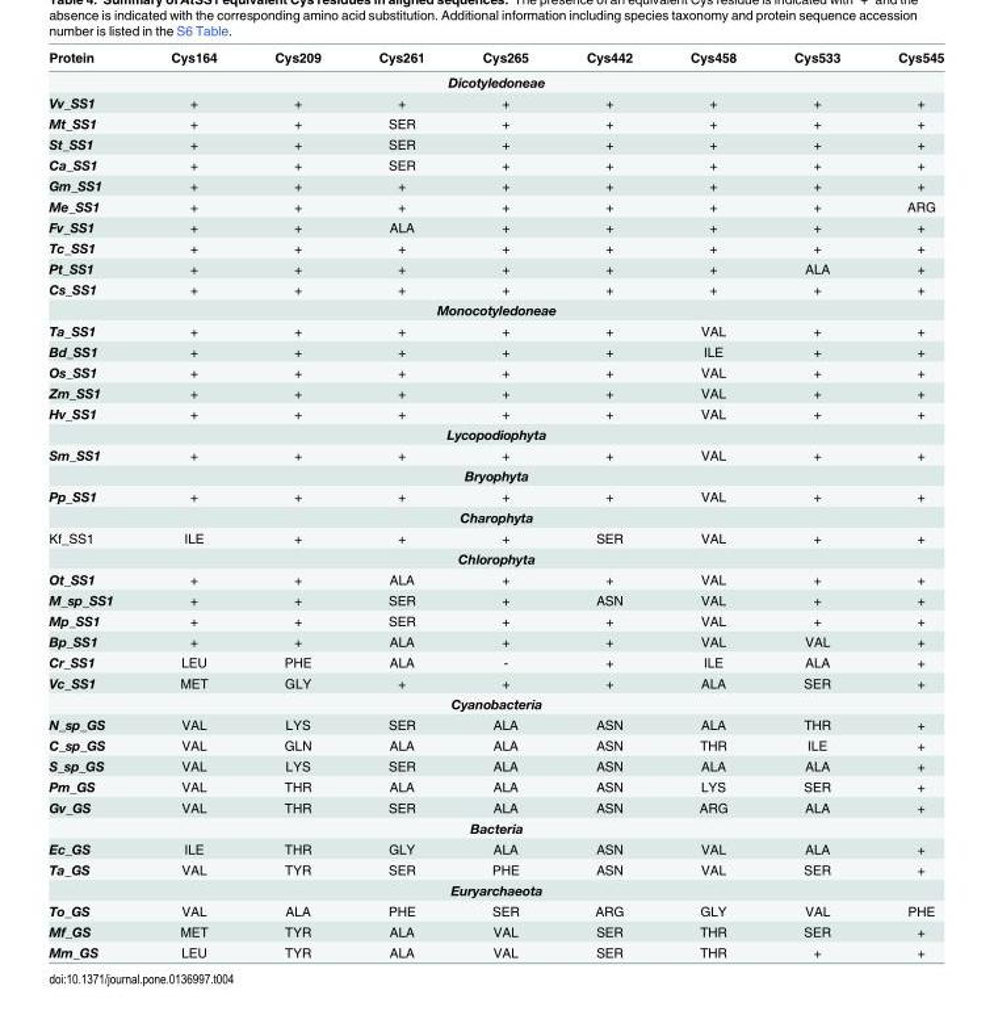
<table><thead><tr><td>Protein</td><td>Cys164</td><td>Cys209</td><td>Cys261</td><td>Cys265</td><td>Cys442</td><td>Cys458</td><td>Cys533</td><td>Cys545</td></tr></thead><tbody><tr><td colspan="9">Dicotyledoneae</td></tr><tr><td>Vv_SS1</td><td>+</td><td>+</td><td>+</td><td>+</td><td>+</td><td>+</td><td>+</td><td>+</td></tr><tr><td>Mt_SS1</td><td>+</td><td>+</td><td>SER</td><td>+</td><td>+</td><td>+</td><td>+</td><td>+</td></tr><tr><td>St_SS1</td><td>+</td><td>+</td><td>SER</td><td>+</td><td>+</td><td>+</td><td>+</td><td>+</td></tr><tr><td>Ca_SS1</td><td>+</td><td>+</td><td>SER</td><td>+</td><td>+</td><td>+</td><td>+</td><td>+</td></tr><tr><td>Gm_SS1</td><td>+</td><td>+</td><td>+</td><td>+</td><td>+</td><td>+</td><td>+</td><td>+</td></tr><tr><td>Me_SS1</td><td>+</td><td>+</td><td>+</td><td>+</td><td>+</td><td>+</td><td>+</td><td>ARG</td></tr><tr><td>Fv_SS1</td><td>+</td><td>+</td><td>ALA</td><td>+</td><td>+</td><td>+</td><td>+</td><td>+</td></tr><tr><td>Tc_SS1</td><td>+</td><td>+</td><td>+</td><td>+</td><td>+</td><td>+</td><td>+</td><td>+</td></tr><tr><td>Pt_SS1</td><td>+</td><td>+</td><td>+</td><td>+</td><td>+</td><td>+</td><td>ALA</td><td>+</td></tr><tr><td>Cs_SS1</td><td>+</td><td>+</td><td>+</td><td>+</td><td>+</td><td>+</td><td>+</td><td>+</td></tr><tr><td colspan="9">Monocotyledoneae</td></tr><tr><td>Ta_SS1</td><td>+</td><td>+</td><td>+</td><td>+</td><td>+</td><td>VAL</td><td>+</td><td>+</td></tr><tr><td>Bd_SS1</td><td>+</td><td>+</td><td>+</td><td>+</td><td>+</td><td>ILE</td><td>+</td><td>+</td></tr><tr><td>Os_SS1</td><td>+</td><td>+</td><td>+</td><td>+</td><td>+</td><td>VAL</td><td>+</td><td>+</td></tr><tr><td>Zm_SS1</td><td>+</td><td>+</td><td>+</td><td>+</td><td>+</td><td>VAL</td><td>+</td><td>+</td></tr><tr><td>Hv_SS1</td><td>+</td><td>+</td><td>+</td><td>+</td><td>+</td><td>VAL</td><td>+</td><td>+</td></tr><tr><td colspan="9">Lycopodiophyta</td></tr><tr><td>Sm_SS1</td><td>+</td><td>+</td><td>+</td><td>+</td><td>+</td><td>VAL</td><td>+</td><td>+</td></tr><tr><td colspan="9">Bryophyta</td></tr><tr><td>Pp_SS1</td><td>+</td><td>+</td><td>+</td><td>+</td><td>+</td><td>VAL</td><td>+</td><td>+</td></tr><tr><td colspan="9">Charophyta</td></tr><tr><td>Kf_SS1</td><td>ILE</td><td>+</td><td>+</td><td>+</td><td>SER</td><td>VAL</td><td>+</td><td>+</td></tr><tr><td colspan="9">Chlorophyta</td></tr><tr><td>Ot_SS1</td><td>+</td><td>+</td><td>ALA</td><td>+</td><td>+</td><td>VAL</td><td>+</td><td>+</td></tr><tr><td>M_sp_SS1</td><td>+</td><td>+</td><td>SER</td><td>+</td><td>ASN</td><td>VAL</td><td>+</td><td>+</td></tr><tr><td>Mp_SS1</td><td>+</td><td>+</td><td>SER</td><td>+</td><td>+</td><td>VAL</td><td>+</td><td>+</td></tr><tr><td>Bp_SS1</td><td>+</td><td>+</td><td>ALA</td><td>+</td><td>+</td><td>VAL</td><td>VAL</td><td>+</td></tr><tr><td>Cr_SS1</td><td>LEU</td><td>PHE</td><td>ALA</td><td>-</td><td>+</td><td>ILE</td><td>ALA</td><td>+</td></tr><tr><td>Vc_SS1</td><td>MET</td><td>GLY</td><td>+</td><td>+</td><td>+</td><td>ALA</td><td>SER</td><td>+</td></tr><tr><td colspan="9">Cyanobacteria</td></tr><tr><td>N_sp_GS</td><td>VAL</td><td>LYS</td><td>SER</td><td>ALA</td><td>ASN</td><td>ALA</td><td>THR</td><td>+</td></tr><tr><td>C_sp_GS</td><td>VAL</td><td>GLN</td><td>ALA</td><td>ALA</td><td>ASN</td><td>THR</td><td>ILE</td><td>+</td></tr><tr><td>S_sp_GS</td><td>VAL</td><td>LYS</td><td>SER</td><td>ALA</td><td>ASN</td><td>ALA</td><td>ALA</td><td>+</td></tr><tr><td>Pm_GS</td><td>VAL</td><td>THR</td><td>ALA</td><td>ALA</td><td>ASN</td><td>LYS</td><td>SER</td><td>+</td></tr><tr><td>Gv_GS</td><td>VAL</td><td>THR</td><td>SER</td><td>ALA</td><td>ASN</td><td>ARG</td><td>ALA</td><td>+</td></tr><tr><td colspan="9">Bacteria</td></tr><tr><td>Ec_GS</td><td>ILE</td><td>THR</td><td>GLY</td><td>ALA</td><td>ASN</td><td>VAL</td><td>ALA</td><td>+</td></tr><tr><td>Ta_GS</td><td>VAL</td><td>TYR</td><td>SER</td><td>PHE</td><td>ASN</td><td>VAL</td><td>SER</td><td>+</td></tr><tr><td colspan="9">Euryarchaeota</td></tr><tr><td>To_GS</td><td>VAL</td><td>ALA</td><td>PHE</td><td>SER</td><td>ARG</td><td>GLY</td><td>VAL</td><td>PHE</td></tr><tr><td>Mf_GS</td><td>MET</td><td>TYR</td><td>ALA</td><td>VAL</td><td>SER</td><td>THR</td><td>SER</td><td>+</td></tr><tr><td>Mm_GS</td><td>LEU</td><td>TYR</td><td>ALA</td><td>VAL</td><td>SER</td><td>THR</td><td>+</td><td>+</td></tr></tbody></table>